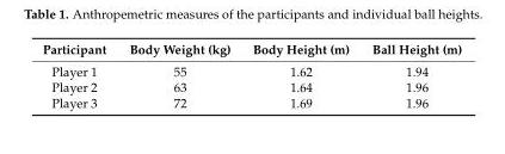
<table><thead><tr><td>Participant</td><td>Body Weight (kg)</td><td>Body Height (m)</td><td>Ball Height (m)</td></tr></thead><tbody><tr><td>Player 1</td><td>55</td><td>1.62</td><td>1.94</td></tr><tr><td>Player 2</td><td>63</td><td>1.64</td><td>1.96</td></tr><tr><td>Player 3</td><td>72</td><td>1.69</td><td>1.96</td></tr></tbody></table>